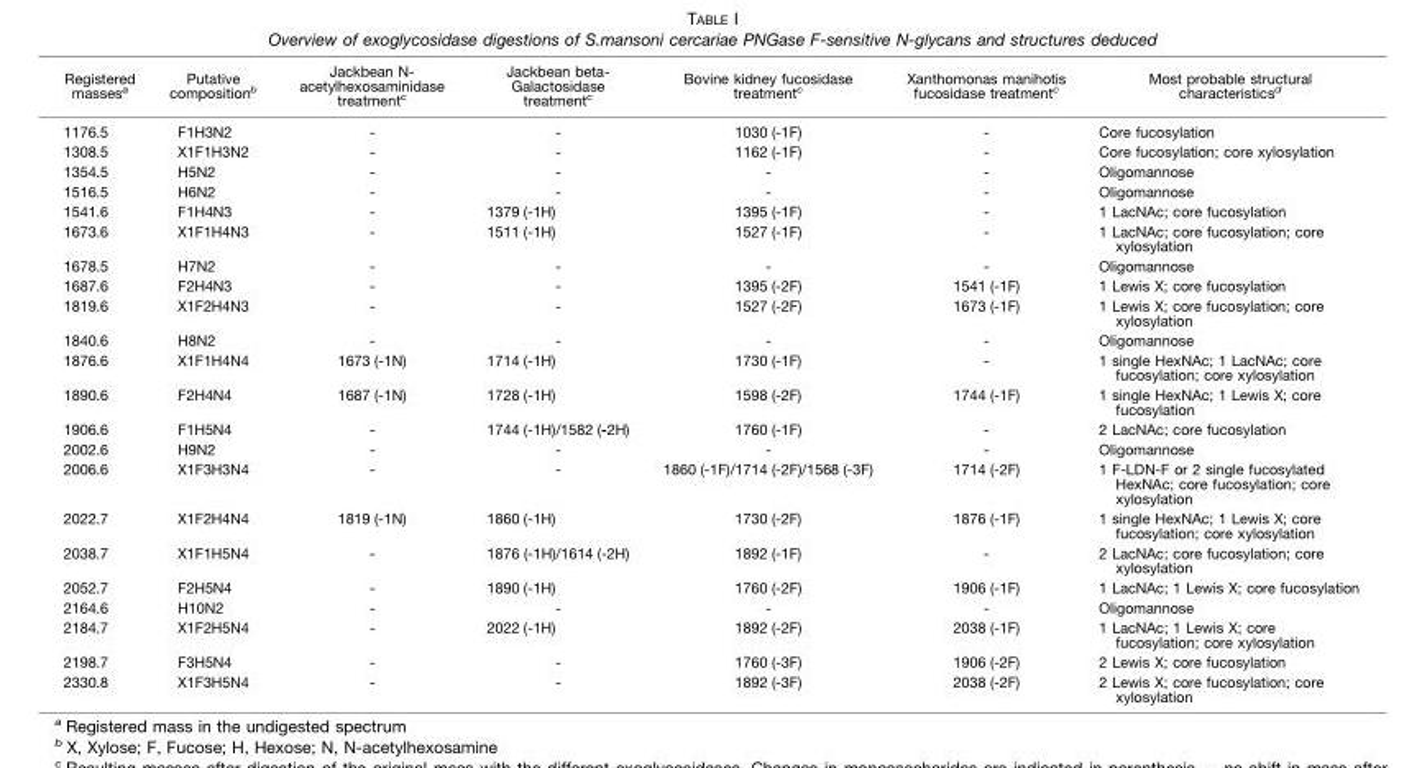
<table><thead><tr><td>Registered masses<sup>a</sup></td><td>Putative composition<sup>b</sup></td><td>Jackbean N- acetylhexosaminidase treatment<sup>c</sup></td><td>Jackbean beta- Galactosidase treatment<sup>c</sup></td><td>Bovine kidney fucosidase treatment<sup>c</sup></td><td>Xanthomonas manihotis fucosidase treatment<sup>c</sup></td><td>Most probable structural characteristics<sup>d</sup></td></tr></thead><tbody><tr><td>1176.5</td><td>F1H3N2</td><td>-</td><td>-</td><td>1030 (-1F)</td><td>-</td><td>Core fucosylation</td></tr><tr><td>1308.5</td><td>X1F1H3N2</td><td>-</td><td>-</td><td>1162 (-1F)</td><td>-</td><td>Core fucosylation; core xylosylation</td></tr><tr><td>1354.5</td><td>H5N2</td><td>-</td><td>-</td><td>-</td><td>-</td><td>Oligomannose</td></tr><tr><td>1516.5</td><td>H6N2</td><td>-</td><td>-</td><td>-</td><td>-</td><td>Oligomannose</td></tr><tr><td>1541.6</td><td>F1H4N3</td><td>-</td><td>1379 (-1H)</td><td>1395 (-1F)</td><td>-</td><td>1 LacNAc; core fucosylation</td></tr><tr><td>1673.6</td><td>X1F1H4N3</td><td>-</td><td>1511 (-1H)</td><td>1527 (-1F)</td><td>-</td><td>1 LacNAc; core fucosylation; core xylosylation</td></tr><tr><td>1678.5</td><td>H7N2</td><td>-</td><td>-</td><td>-</td><td>-</td><td>Oligomannose</td></tr><tr><td>1687.6</td><td>F2H4N3</td><td>-</td><td>-</td><td>1395 (-2F)</td><td>1541 (-1F)</td><td>1 Lewis X; core fucosylation</td></tr><tr><td>1819.6</td><td>X1F2H4N3</td><td>-</td><td>-</td><td>1527 (-2F)</td><td>1673 (-1F)</td><td>1 Lewis X; core fucosylation; core xylosylation</td></tr><tr><td>1840.6</td><td>H8N2</td><td>-</td><td>-</td><td>-</td><td>-</td><td>Oligomannose</td></tr><tr><td>1876.6</td><td>X1F1H4N4</td><td>1673 (-1N)</td><td>1714 (-1H)</td><td>1730 (-1F)</td><td>-</td><td>1 single HexNAc; 1 LacNAc; core fucosylation; core xylosylation</td></tr><tr><td>1890.6</td><td>F2H4N4</td><td>1687 (-1N)</td><td>1728 (-1H)</td><td>1598 (-2F)</td><td>1744 (-1F)</td><td>1 single HexNAc; 1 Lewis X; core fucosylation</td></tr><tr><td>1906.6</td><td>F1H5N4</td><td>-</td><td>1744 (-1H)/1582 (-2H)</td><td>1760 (-1F)</td><td>-</td><td>2 LacNAc; core fucosylation</td></tr><tr><td>2002.6</td><td>H9N2</td><td>-</td><td>-</td><td>-</td><td>-</td><td>Oligomannose</td></tr><tr><td>2006.6</td><td>X1F3H3N4</td><td>-</td><td>-</td><td>1860 (-1F)/1714 (-2F)/1568 (-3F)</td><td>1714 (-2F)</td><td>1 F-LDN-F or 2 single fucosylated HexNAc; core fucosylation; core xylosylation</td></tr><tr><td>2022.7</td><td>X1F2H4N4</td><td>1819 (-1N)</td><td>1860 (-1H)</td><td>1730 (-2F)</td><td>1876 (-1F)</td><td>1 single HexNAc; 1 Lewis X; core fucosylation; core xylosylation</td></tr><tr><td>2038.7</td><td>X1F1H5N4</td><td>-</td><td>1876 (-1H)/1614 (-2H)</td><td>1892 (-1F)</td><td>-</td><td>2 LacNAc; core fucosylation; core xylosylation</td></tr><tr><td>2052.7</td><td>F2H5N4</td><td>-</td><td>1890 (-1H)</td><td>1760 (-2F)</td><td>1906 (-1F)</td><td>1 LacNAc; 1 Lewis X; core fucosylation</td></tr><tr><td>2164.6</td><td>H10N2</td><td>-</td><td>-</td><td>-</td><td>-</td><td>Oligomannose</td></tr><tr><td>2184.7</td><td>X1F2H5N4</td><td>-</td><td>2022 (-1H)</td><td>1892 (-2F)</td><td>2038 (-1F)</td><td>1 LacNAc; 1 Lewis X; core fucosylation; core xylosylation</td></tr><tr><td>2198.7</td><td>F3H5N4</td><td>-</td><td>-</td><td>1760 (-3F)</td><td>1906 (-2F)</td><td>2 Lewis X; core fucosylation</td></tr><tr><td>2330.8</td><td>X1F3H5N4</td><td>-</td><td>-</td><td>1892 (-3F)</td><td>2038 (-2F)</td><td>2 Lewis X; core fucosylation; core xylosylation</td></tr></tbody></table>